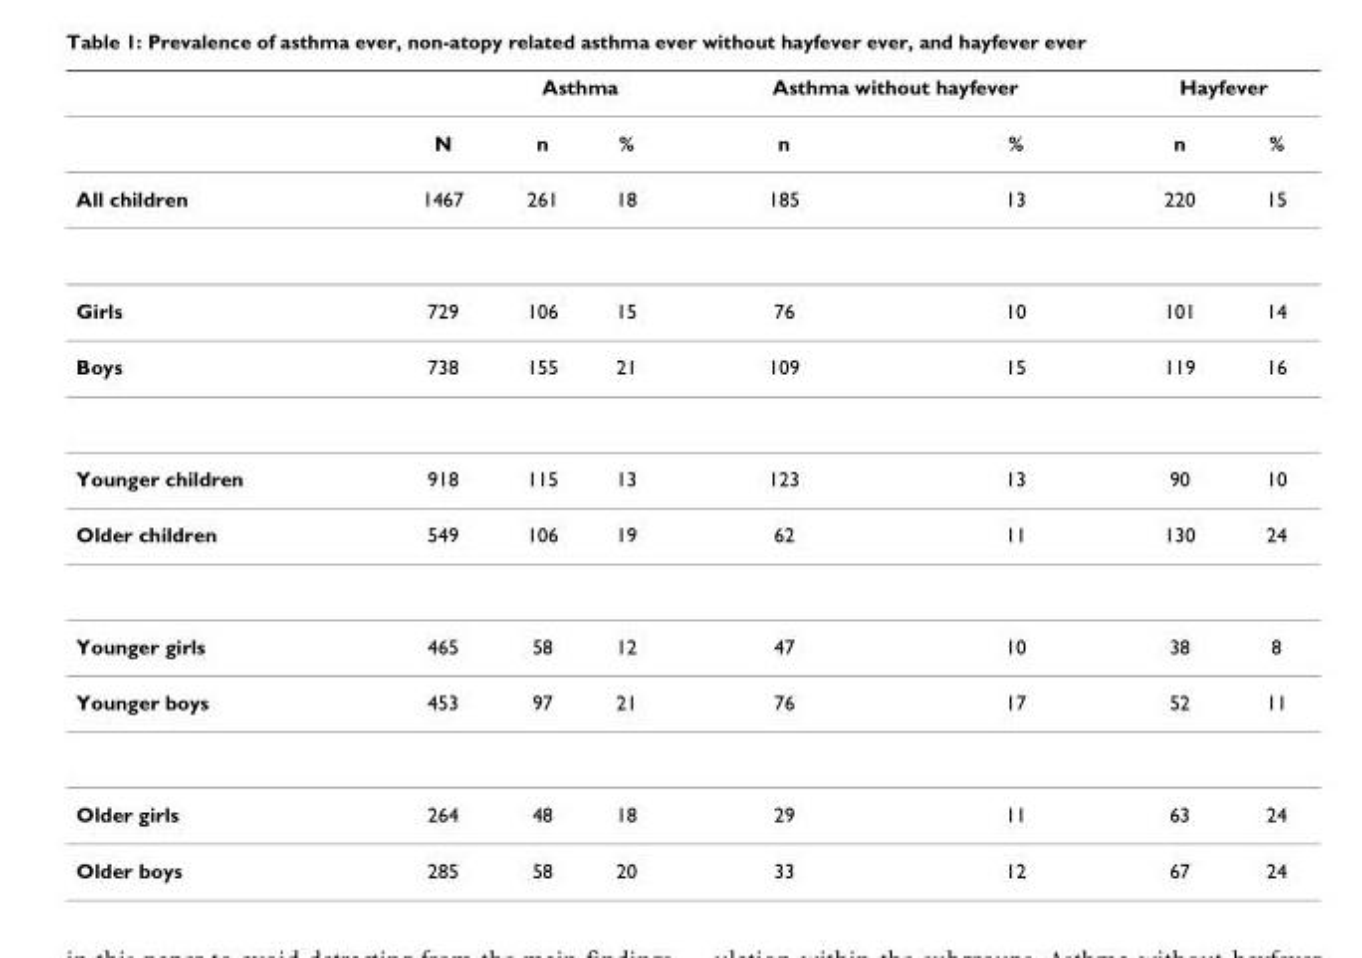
<table><thead><tr><td rowspan="2"></td><td rowspan="2">N</td><td colspan="2">Asthma</td><td colspan="2">Asthma without hayfever</td><td colspan="2">Hayfever</td></tr><tr><td>n</td><td>%</td><td>n</td><td>%</td><td>n</td><td>%</td></tr></thead><tbody><tr><td>All children</td><td>1467</td><td>261</td><td>18</td><td>185</td><td>13</td><td>220</td><td>15</td></tr><tr><td>Girls</td><td>729</td><td>106</td><td>15</td><td>76</td><td>10</td><td>101</td><td>14</td></tr><tr><td>Boys</td><td>738</td><td>155</td><td>21</td><td>109</td><td>15</td><td>119</td><td>16</td></tr><tr><td>Younger children</td><td>918</td><td>115</td><td>13</td><td>123</td><td>13</td><td>90</td><td>10</td></tr><tr><td>Older children</td><td>549</td><td>106</td><td>19</td><td>62</td><td>11</td><td>130</td><td>24</td></tr><tr><td>Younger girls</td><td>465</td><td>58</td><td>12</td><td>47</td><td>10</td><td>38</td><td>8</td></tr><tr><td>Younger boys</td><td>453</td><td>97</td><td>21</td><td>76</td><td>17</td><td>52</td><td>11</td></tr><tr><td>Older girls</td><td>264</td><td>48</td><td>18</td><td>29</td><td>11</td><td>63</td><td>24</td></tr><tr><td>Older boys</td><td>285</td><td>58</td><td>20</td><td>33</td><td>12</td><td>67</td><td>24</td></tr></tbody></table>